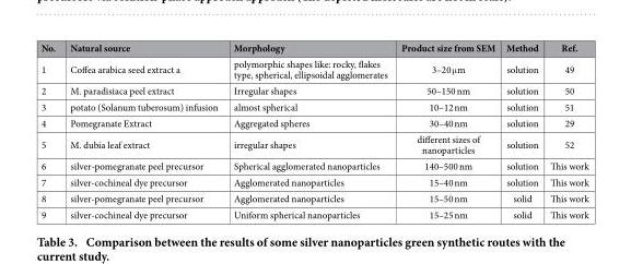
<table><thead><tr><td>No.</td><td>Natural source</td><td>Morphology</td><td>Product size from SEM</td><td>Method</td><td>Ref.</td></tr></thead><tbody><tr><td>1</td><td>Coffea arabica seed extract a</td><td>polymorphic shapes like: rocky, flakes type, spherical, ellipsoidal agglomerates</td><td>3–20 μ m</td><td>solution</td><td>49</td></tr><tr><td>2</td><td>M. paradisiaca peel extract</td><td>Irregular shapes</td><td>50–150 nm</td><td>solution</td><td>50</td></tr><tr><td>3</td><td>potato (Solanum tuberosum) infusion</td><td>almost spherical</td><td>10–12 nm</td><td>solution</td><td>51</td></tr><tr><td>4</td><td>Pomegranate Extract</td><td>Aggregated spheres</td><td>30–40 nm</td><td>solution</td><td>29</td></tr><tr><td>5</td><td>M. dubia leaf extract</td><td>irregular shapes</td><td>different sizes of nanoparticles</td><td>solution</td><td>52</td></tr><tr><td>6</td><td>silver-pomegranate peel precursor</td><td>Spherical agglomerated nanoparticles</td><td>140–500 nm</td><td>solution</td><td>This work</td></tr><tr><td>7</td><td>silver-cochineal dye precursor</td><td>Agglomerated nanoparticles</td><td>15–40 nm</td><td>solution</td><td>This work</td></tr><tr><td>8</td><td>silver-pomegranate peel precursor</td><td>Agglomerated nanoparticles</td><td>15–50 nm</td><td>solid</td><td>This work</td></tr><tr><td>9</td><td>silver-cochineal dye precursor</td><td>Uniform spherical nanoparticles</td><td>15–25 nm</td><td>solid</td><td>This work</td></tr></tbody></table>